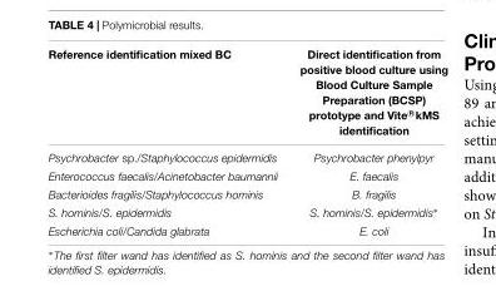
<table><thead><tr><td>Reference identification mixed BC</td><td>Direct identification from positive blood culture using Blood Culture Sample Preparation (BCSP) prototype and Vite R⃝kMS identification</td></tr></thead><tbody><tr><td>Psychrobacter sp./Staphylococcus epidermidis</td><td>Psychrobacter phenylpyr</td></tr><tr><td>Enterococcus faecalis/Acinetobacter baumannii</td><td>E. faecalis</td></tr><tr><td>Bacterioides fragilis/Staphylococcus hominis</td><td>B. fragilis</td></tr><tr><td>S. hominis/S. epidermidis</td><td>S. hominis/S. epidermidis∗</td></tr><tr><td>Escherichia coli/Candida glabrata</td><td>E. coli</td></tr></tbody></table>